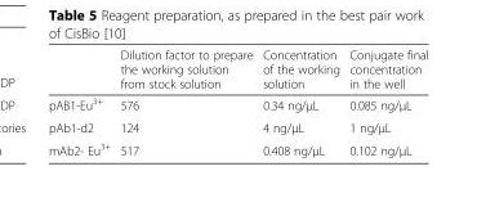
<table><thead><tr><td></td><td>Dilution factor to prepare the working solution from stock solution</td><td>Concentration of the working solution</td><td>Conjugate final concentration in the well</td></tr></thead><tbody><tr><td>pAB1-Eu<sup>3+</sup></td><td>576</td><td>0.34 ng/μL</td><td>0.085 ng/μL</td></tr><tr><td>pAb1-d2</td><td>124</td><td>4 ng/μL</td><td>1 ng/μL</td></tr><tr><td>mAb2- Eu<sup>3+</sup></td><td>517</td><td>0.408 ng/μL</td><td>0.102 ng/μL</td></tr></tbody></table>